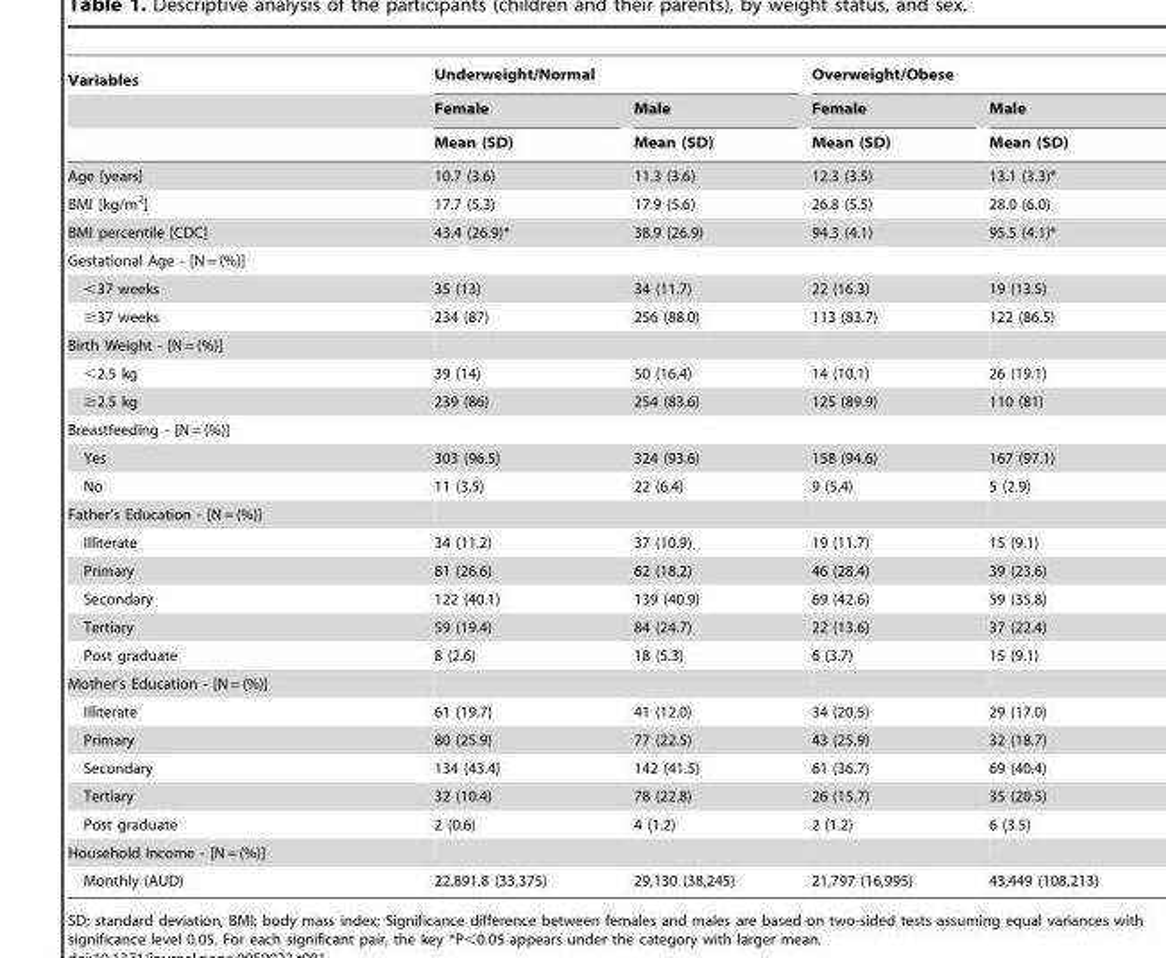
<table><thead><tr><td rowspan="3">Variables</td><td colspan="2">Underweight/Normal</td><td colspan="2">Overweight/Obese</td></tr><tr><td rowspan="2">Female Mean (SD)</td><td rowspan="2">Male Mean (SD)</td><td rowspan="2">Female Mean (SD)</td><td rowspan="2">Male Mean (SD)</td></tr><tr></tr></thead><tbody><tr><td>Age [years]</td><td>10.7 (3.6)</td><td>11.3 (3.6)</td><td>12.3 (3.5)</td><td>13.1 (3.3)*</td></tr><tr><td>BMI [kg/m<sup>2</sup>]</td><td>17.7 (5.3)</td><td>17.9 (5.6)</td><td>26.8 (5.5)</td><td>28.0 (6.0)</td></tr><tr><td>BMI percentile [CDC]</td><td>43.4 (26.9)*</td><td>38.9 (26.9)</td><td>94.3 (4.1)</td><td>95.5 (4.1)*</td></tr><tr><td colspan="5">Gestational Age - [N = (%)]</td></tr><tr><td>&lt;37 weeks</td><td>35 (13)</td><td>34 (11.7)</td><td>22 (16.3)</td><td>19 (13.5)</td></tr><tr><td>≥37 weeks</td><td>234 (87)</td><td>256 (88.0)</td><td>113 (83.7)</td><td>122 (86.5)</td></tr><tr><td colspan="5">Birth Weight - [N = (%)]</td></tr><tr><td>&lt;2.5 kg</td><td>39 (14)</td><td>50 (16.4)</td><td>14 (10.1)</td><td>26 (19.1)</td></tr><tr><td>≥2.5 kg</td><td>239 (86)</td><td>254 (83.6)</td><td>125 (89.9)</td><td>110 (81)</td></tr><tr><td colspan="5">Breastfeeding - [N = (%)]</td></tr><tr><td>Yes</td><td>303 (96.5)</td><td>324 (93.6)</td><td>158 (94.6)</td><td>167 (97.1)</td></tr><tr><td>No</td><td>11 (3.5)</td><td>22 (6.4)</td><td>9 (5.4)</td><td>5 (2.9)</td></tr><tr><td colspan="5">Father’s Education - [N = (%)]</td></tr><tr><td>Illiterate</td><td>34 (11.2)</td><td>37 (10.9)</td><td>19 (11.7)</td><td>15 (9.1)</td></tr><tr><td>Primary</td><td>81 (26.6)</td><td>62 (18.2)</td><td>46 (28.4)</td><td>39 (23.6)</td></tr><tr><td>Secondary</td><td>122 (40.1)</td><td>139 (40.9)</td><td>69 (42.6)</td><td>59 (35.8)</td></tr><tr><td>Tertiary</td><td>59 (19.4)</td><td>84 (24.7)</td><td>22 (13.6)</td><td>37 (22.4)</td></tr><tr><td>Post graduate</td><td>8 (2.6)</td><td>18 (5.3)</td><td>6 (3.7)</td><td>15 (9.1)</td></tr><tr><td colspan="5">Mother’s Education - [N = (%)]</td></tr><tr><td>Illiterate</td><td>61 (19.7)</td><td>41 (12.0)</td><td>34 (20.5)</td><td>29 (17.0)</td></tr><tr><td>Primary</td><td>80 (25.9)</td><td>77 (22.5)</td><td>43 (25.9)</td><td>32 (18.7)</td></tr><tr><td>Secondary</td><td>134 (43.4)</td><td>142 (41.5)</td><td>61 (36.7)</td><td>69 (40.4)</td></tr><tr><td>Tertiary</td><td>32 (10.4)</td><td>78 (22.8)</td><td>26 (15.7)</td><td>35 (20.5)</td></tr><tr><td>Post graduate</td><td>2 (0.6)</td><td>4 (1.2)</td><td>2 (1.2)</td><td>6 (3.5)</td></tr><tr><td colspan="5">Household Income - [N = (%)]</td></tr><tr><td>Monthly (AUD)</td><td>22,891.8 (33,375)</td><td>29,130 (38,245)</td><td>21,797 (16,995)</td><td>43,449 (108,213)</td></tr></tbody></table>